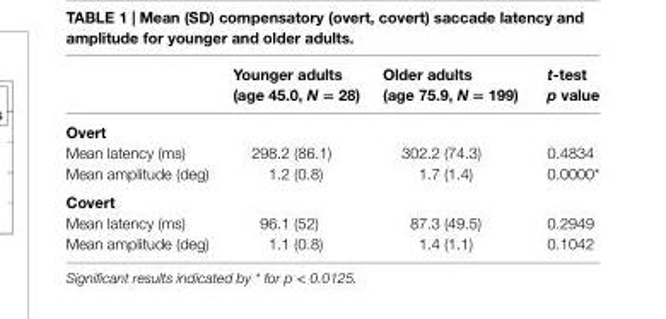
<table><thead><tr><td></td><td>Younger adults (age 45.0, N = 28)</td><td>Older adults (age 75.9, N = 199)</td><td>t-test p value</td></tr></thead><tbody><tr><td colspan="4">Overt</td></tr><tr><td>Mean latency (ms)</td><td>298.2 (86.1)</td><td>302.2 (74.3)</td><td>0.4834</td></tr><tr><td>Mean amplitude (deg)</td><td>1.2 (0.8)</td><td>1.7 (1.4)</td><td>0.0000*</td></tr><tr><td colspan="4">covert</td></tr><tr><td>Mean latency (ms)</td><td>96.1 (52)</td><td>87.3 (49.5)</td><td>0.2949</td></tr><tr><td>Mean amplitude (deg)</td><td>1.1 (0.8)</td><td>1.4 (1.1)</td><td>0.1042</td></tr></tbody></table>